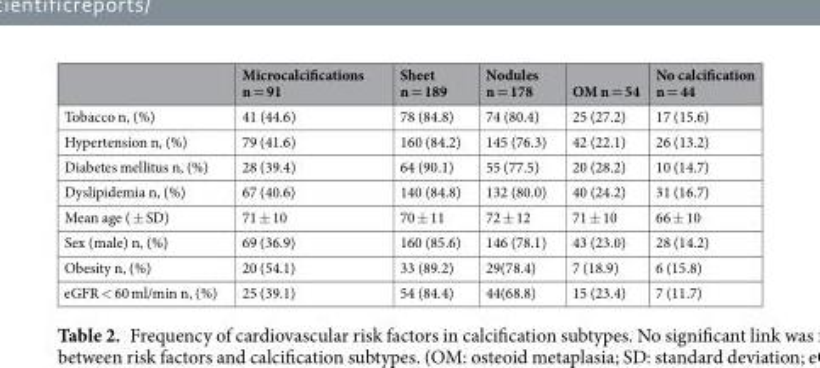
<table><thead><tr><td></td><td>Microcalcifications n = 91</td><td>Sheet n = 189</td><td>Nodules n = 178</td><td>OM n = 54</td><td>No calcification n = 44</td></tr></thead><tbody><tr><td>Tobacco n, (%)</td><td>41 (44.6)</td><td>78 (84.8)</td><td>74 (80.4)</td><td>25 (27.2)</td><td>17 (15.6)</td></tr><tr><td>Hypertension n, (%)</td><td>79 (41.6)</td><td>160 (84.2)</td><td>145 (76.3)</td><td>42 (22.1)</td><td>26 (13.2)</td></tr><tr><td>Diabetes mellitus n, (%)</td><td>28 (39.4)</td><td>64 (90.1)</td><td>55 (77.5)</td><td>20 (28.2)</td><td>10 (14.7)</td></tr><tr><td>Dyslipidemia n, (%)</td><td>67 (40.6)</td><td>140 (84.8)</td><td>132 (80.0)</td><td>40 (24.2)</td><td>31 (16.7)</td></tr><tr><td>Mean age ( ± SD)</td><td>71 ± 10</td><td>70 ± 11</td><td>72 ± 12</td><td>71 ± 10</td><td>66 ± 10</td></tr><tr><td>Sex (male) n, (%)</td><td>69 (36.9)</td><td>160 (85.6)</td><td>146 (78.1)</td><td>43 (23.0)</td><td>28 (14.2)</td></tr><tr><td>Obesity n, (%)</td><td>20 (54.1)</td><td>33 (89.2)</td><td>29(78.4)</td><td>7 (18.9)</td><td>6 (15.8)</td></tr><tr><td>eGFR &lt; 60 ml/min n, (%)</td><td>25 (39.1)</td><td>54 (84.4)</td><td>44(68.8)</td><td>15 (23.4)</td><td>7 (11.7)</td></tr></tbody></table>